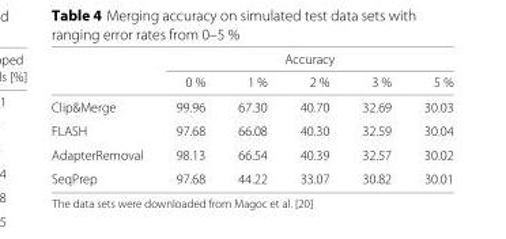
<table><thead><tr><td rowspan="2"></td><td colspan="5">Accuracy</td></tr><tr><td>0 %</td><td>1 %</td><td>2 %</td><td>3 %</td><td>5 %</td></tr></thead><tbody><tr><td>Clip&amp;Merge</td><td>99.96</td><td>67.30</td><td>40.70</td><td>32.69</td><td>30.03</td></tr><tr><td>FLASH</td><td>97.68</td><td>66.08</td><td>40.30</td><td>32.59</td><td>30.04</td></tr><tr><td>AdapterRemoval</td><td>98.13</td><td>66.54</td><td>40.39</td><td>32.57</td><td>30.02</td></tr><tr><td>SeqPrep</td><td>97.68</td><td>44.22</td><td>33.07</td><td>30.82</td><td>30.01</td></tr></tbody></table>